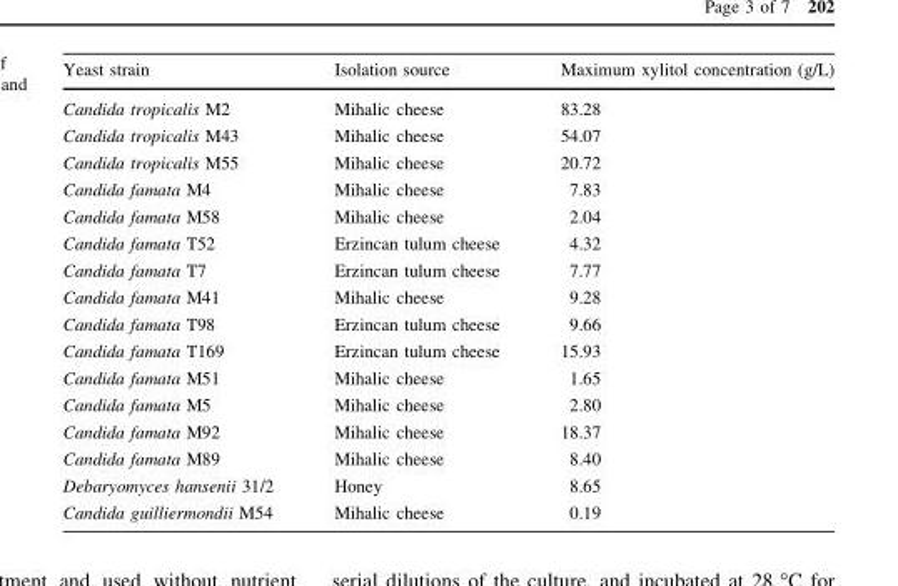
<table><thead><tr><td>Yeast strain</td><td>Isolation source</td><td>Maximum xylitol concentration (g/L)</td></tr></thead><tbody><tr><td>Candida tropicalis M2</td><td>Mihalic cheese</td><td>83.28</td></tr><tr><td>Candida tropicalis M43</td><td>Mihalic cheese</td><td>54.07</td></tr><tr><td>Candida tropicalis M55</td><td>Mihalic cheese</td><td>20.72</td></tr><tr><td>Candida famata M4</td><td>Mihalic cheese</td><td>7.83</td></tr><tr><td>Candida famata M58</td><td>Mihalic cheese</td><td>2.04</td></tr><tr><td>Candida famata T52</td><td>Erzincan tulum cheese</td><td>4.32</td></tr><tr><td>Candida famata T7</td><td>Erzincan tulum cheese</td><td>7.77</td></tr><tr><td>Candida famata M41</td><td>Mihalic cheese</td><td>9.28</td></tr><tr><td>Candida famata T98</td><td>Erzincan tulum cheese</td><td>9.66</td></tr><tr><td>Candida famata T169</td><td>Erzincan tulum cheese</td><td>15.93</td></tr><tr><td>Candida famata M51</td><td>Mihalic cheese</td><td>1.65</td></tr><tr><td>Candida famata M5</td><td>Mihalic cheese</td><td>2.80</td></tr><tr><td>Candida famata M92</td><td>Mihalic cheese</td><td>18.37</td></tr><tr><td>Candida famata M89</td><td>Mihalic cheese</td><td>8.40</td></tr><tr><td>Debaryomyces hansenii 31/2</td><td>Honey</td><td>8.65</td></tr><tr><td>Candida guilliermondii M54</td><td>Mihalic cheese</td><td>0.19</td></tr></tbody></table>